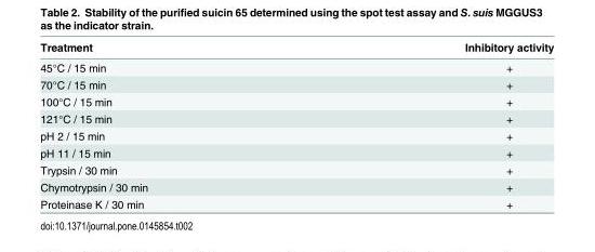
<table><thead><tr><td>Treatment</td><td>Inhibitory activity</td></tr></thead><tbody><tr><td>45°C / 15 min</td><td>+</td></tr><tr><td>70°C / 15 min</td><td>+</td></tr><tr><td>100°C / 15 min</td><td>+</td></tr><tr><td>121°C / 15 min</td><td>+</td></tr><tr><td>pH 2 / 15 min</td><td>+</td></tr><tr><td>pH 11 / 15 min</td><td>+</td></tr><tr><td>Trypsin / 30 min</td><td>+</td></tr><tr><td>Chymotrypsin / 30 min</td><td>+</td></tr><tr><td>Proteinase K / 30 min</td><td>+</td></tr></tbody></table>